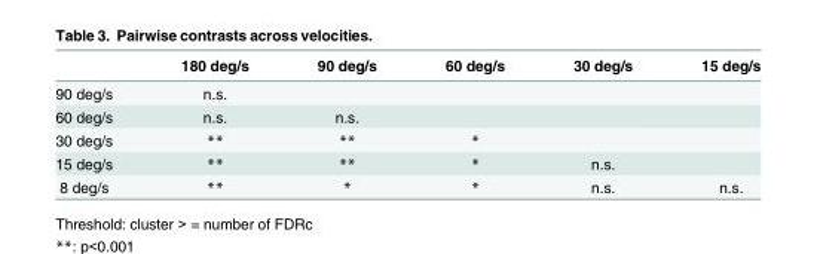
<table><thead><tr><td></td><td>180 deg/s</td><td>90 deg/s</td><td>60 deg/s</td><td>30 deg/s</td><td>15 deg/s</td></tr></thead><tbody><tr><td>90 deg/s</td><td>n.s.</td><td></td><td></td><td></td><td></td></tr><tr><td>60 deg/s</td><td>n.s.</td><td>n.s.</td><td></td><td></td><td></td></tr><tr><td>30 deg/s</td><td>**</td><td>**</td><td>*</td><td></td><td></td></tr><tr><td>15 deg/s</td><td>**</td><td>**</td><td>*</td><td>n.s.</td><td></td></tr><tr><td>8 deg/s</td><td>**</td><td>*</td><td>*</td><td>n.s.</td><td>n.s.</td></tr></tbody></table>